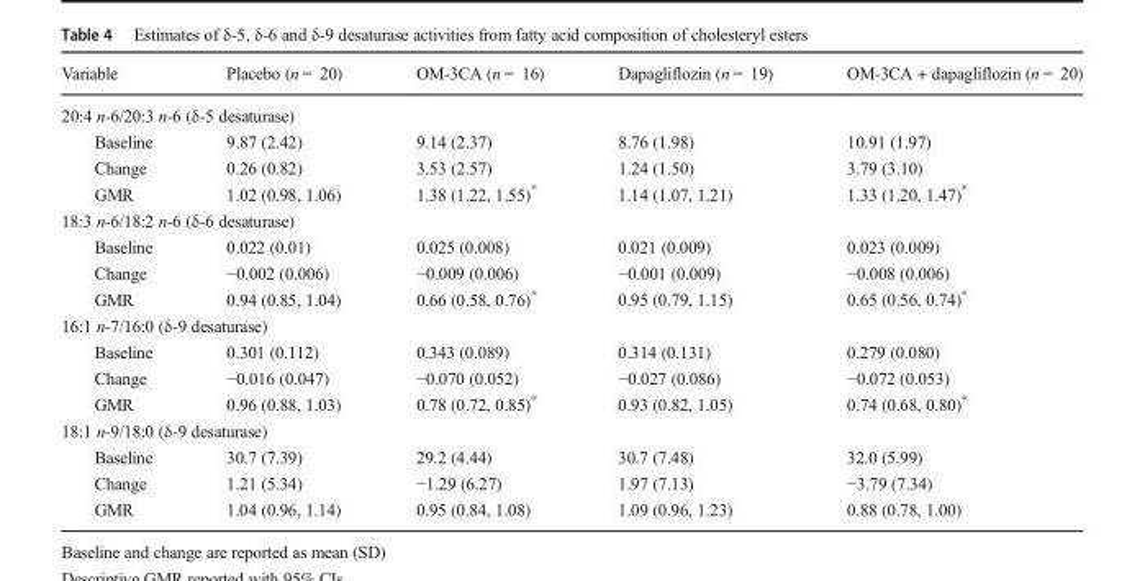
<table><thead><tr><td>Variable</td><td>Placebo (n = 20)</td><td>OM-3CA (n = 16)</td><td>Dapagliflozin (n = 19)</td><td>OM-3CA + dapagliflozin (n = 20)</td></tr></thead><tbody><tr><td colspan="5">20:4 n-6/20:3 n-6 (δ-5 desaturase)</td></tr><tr><td>Baseline</td><td>9.87 (2.42)</td><td>9.14 (2.37)</td><td>8.76 (1.98)</td><td>10.91 (1.97)</td></tr><tr><td>Change</td><td>0.26 (0.82)</td><td>3.53 (2.57)</td><td>1.24 (1.50)</td><td>3.79 (3.10)</td></tr><tr><td>GMR</td><td>1.02 (0.98, 1.06)</td><td>1.38 (1.22, 1.55)*</td><td>1.14 (1.07, 1.21)</td><td>1.33 (1.20, 1.47)*</td></tr><tr><td colspan="5">18:3 n-6/18:2 n-6 (δ-6 desaturase)</td></tr><tr><td>Baseline</td><td>0.022 (0.01)</td><td>0.025 (0.008)</td><td>0.021 (0.009)</td><td>0.023 (0.009)</td></tr><tr><td>Change</td><td>−0.002 (0.006)</td><td>−0.009 (0.006)</td><td>−0.001 (0.009)</td><td>−0.008 (0.006)</td></tr><tr><td>GMR</td><td>0.94 (0.85, 1.04)</td><td>0.66 (0.58, 0.76)*</td><td>0.95 (0.79, 1.15)</td><td>0.65 (0.56, 0.74)*</td></tr><tr><td colspan="5">16:1 n-7/16:0 (δ-9 desaturase)</td></tr><tr><td>Baseline</td><td>0.301 (0.112)</td><td>0.343 (0.089)</td><td>0.314 (0.131)</td><td>0.279 (0.080)</td></tr><tr><td>Change</td><td>−0.016 (0.047)</td><td>−0.070 (0.052)</td><td>−0.027 (0.086)</td><td>−0.072 (0.053)</td></tr><tr><td>GMR</td><td>0.96 (0.88, 1.03)</td><td>0.78 (0.72, 0.85)*</td><td>0.93 (0.82, 1.05)</td><td>0.74 (0.68, 0.80)*</td></tr><tr><td colspan="5">18:1 n-9/18:0 (δ-9 desaturase)</td></tr><tr><td>Baseline</td><td>30.7 (7.39)</td><td>29.2 (4.44)</td><td>30.7 (7.48)</td><td>32.0 (5.99)</td></tr><tr><td>Change</td><td>1.21 (5.34)</td><td>−1.29 (6.27)</td><td>1.97 (7.13)</td><td>−3.79 (7.34)</td></tr><tr><td>GMR</td><td>1.04 (0.96, 1.14)</td><td>0.95 (0.84, 1.08)</td><td>1.09 (0.96, 1.23)</td><td>0.88 (0.78, 1.00)</td></tr></tbody></table>